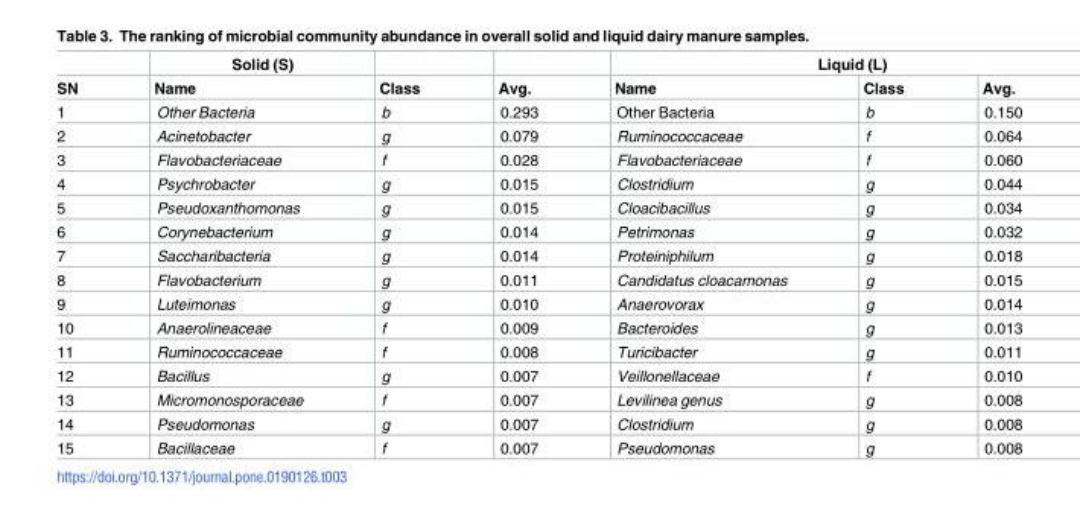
<table><thead><tr><td rowspan="2">SN</td><td rowspan="2">Solid (S) Name</td><td rowspan="2">Class</td><td rowspan="2">Avg.</td><td colspan="3">Liquid (L)</td></tr><tr><td>Name</td><td>Class</td><td>Avg.</td></tr></thead><tbody><tr><td>1</td><td>Other Bacteria</td><td>b</td><td>0.293</td><td>Other Bacteria</td><td>b</td><td>0.150</td></tr><tr><td>2</td><td>Acinetobacter</td><td>g</td><td>0.079</td><td>Ruminococcaceae</td><td>f</td><td>0.064</td></tr><tr><td>3</td><td>Flavobacteriaceae</td><td>f</td><td>0.028</td><td>Flavobacteriaceae</td><td>f</td><td>0.060</td></tr><tr><td>4</td><td>Psychrobacter</td><td>g</td><td>0.015</td><td>Clostridium</td><td>g</td><td>0.044</td></tr><tr><td>5</td><td>Pseudoxanthomonas</td><td>g</td><td>0.015</td><td>Cloacibacillus</td><td>g</td><td>0.034</td></tr><tr><td>6</td><td>Corynebacterium</td><td>g</td><td>0.014</td><td>Petrimonas</td><td>g</td><td>0.032</td></tr><tr><td>7</td><td>Saccharibacteria</td><td>g</td><td>0.014</td><td>Proteiniphilum</td><td>g</td><td>0.018</td></tr><tr><td>8</td><td>Flavobacterium</td><td>g</td><td>0.011</td><td>Candidatus cloacamonas</td><td>g</td><td>0.015</td></tr><tr><td>9</td><td>Luteimonas</td><td>g</td><td>0.010</td><td>Anaerovorax</td><td>g</td><td>0.014</td></tr><tr><td>10</td><td>Anaerolineaceae</td><td>f</td><td>0.009</td><td>Bacteroides</td><td>g</td><td>0.013</td></tr><tr><td>11</td><td>Ruminococcaceae</td><td>f</td><td>0.008</td><td>Turicibacter</td><td>g</td><td>0.011</td></tr><tr><td>12</td><td>Bacillus</td><td>g</td><td>0.007</td><td>Veillonellaceae</td><td>f</td><td>0.010</td></tr><tr><td>13</td><td>Micromonosporaceae</td><td>f</td><td>0.007</td><td>Levilinea genus</td><td>g</td><td>0.008</td></tr><tr><td>14</td><td>Pseudomonas</td><td>g</td><td>0.007</td><td>Clostridium</td><td>g</td><td>0.008</td></tr><tr><td>15</td><td>Bacillaceae</td><td>f</td><td>0.007</td><td>Pseudomonas</td><td>g</td><td>0.008</td></tr></tbody></table>